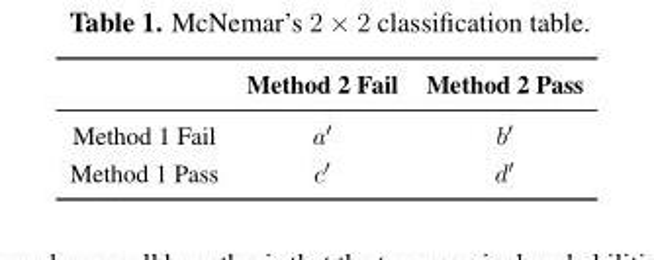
<table><thead><tr><td></td><td>Method 2 Fail</td><td>Method 2 Pass</td></tr></thead><tbody><tr><td>Method 1 Fail</td><td>a′</td><td>b′</td></tr><tr><td>Method 1 Pass</td><td>c′</td><td>d′</td></tr></tbody></table>